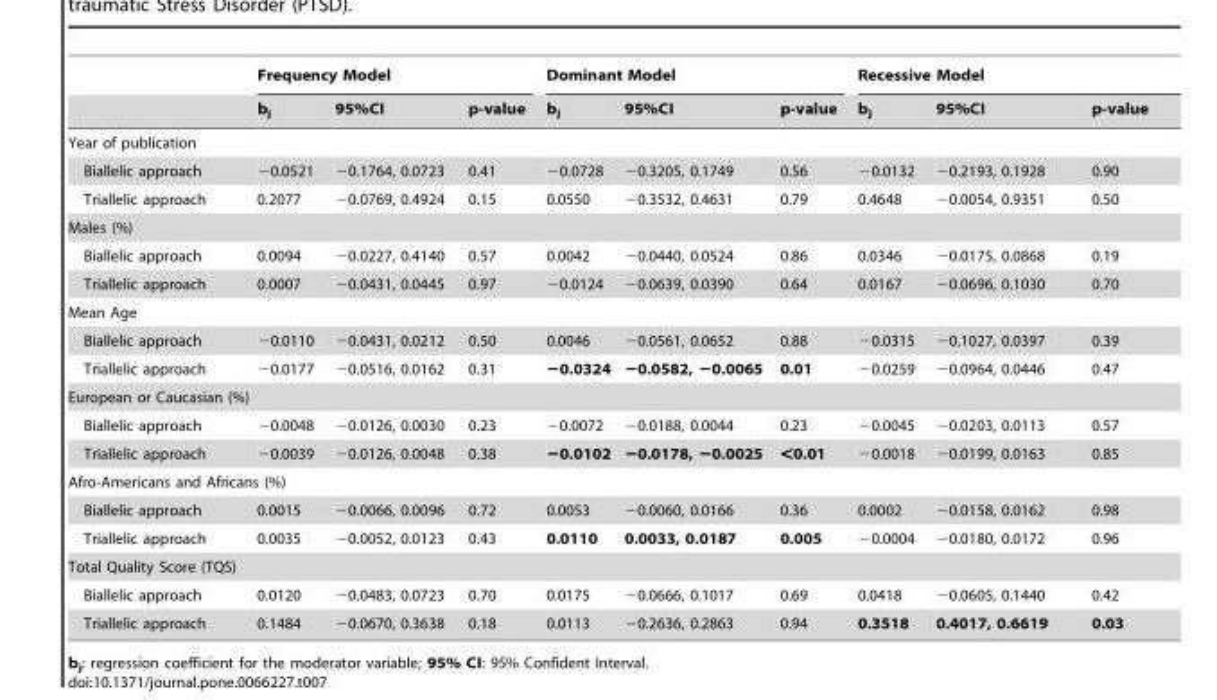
<table><thead><tr><td rowspan="2"></td><td colspan="3">Frequency Model</td><td colspan="3">Dominant Model</td><td colspan="3">Recessive Model</td></tr><tr><td>b<sub>j</sub></td><td>95%CI</td><td>p-value</td><td>b<sub>j</sub></td><td>95%CI</td><td>p-value</td><td>b<sub>j</sub></td><td>95%CI</td><td>p-value</td></tr></thead><tbody><tr><td colspan="10">Year of publication</td></tr><tr><td>Biallelic approach</td><td>−0.0521</td><td>−0.1764, 0.0723</td><td>0.41</td><td>−0.0728</td><td>−0.3205, 0.1749</td><td>0.56</td><td>−0.0132</td><td>−0.2193, 0.1928</td><td>0.90</td></tr><tr><td>Triallelic approach</td><td>0.2077</td><td>−0.0769, 0.4924</td><td>0.15</td><td>0.0550</td><td>−0.3532, 0.4631</td><td>0.79</td><td>0.4648</td><td>−0.0054, 0.9351</td><td>0.50</td></tr><tr><td colspan="10">Males (%)</td></tr><tr><td>Biallelic approach</td><td>0.0094</td><td>−0.0227, 0.4140</td><td>0.57</td><td>0.0042</td><td>−0.0440, 0.0524</td><td>0.86</td><td>0.0346</td><td>−0.0175, 0.0868</td><td>0.19</td></tr><tr><td>Triallelic approach</td><td>0.0007</td><td>−0.0431, 0.0445</td><td>0.97</td><td>−0.0124</td><td>−0.0639, 0.0390</td><td>0.64</td><td>0.0167</td><td>−0.0696, 0.1030</td><td>0.70</td></tr><tr><td colspan="10">Mean Age</td></tr><tr><td>Biallelic approach</td><td>−0.0110</td><td>−0.0431, 0.0212</td><td>0.50</td><td>0.0046</td><td>−0.0561, 0.0652</td><td>0.88</td><td>−0.0315</td><td>−0.1027, 0.0397</td><td>0.39</td></tr><tr><td>Triallelic approach</td><td>−0.0177</td><td>−0.0516, 0.0162</td><td>0.31</td><td>−0.0324</td><td>−0.0582, −0.0065</td><td>0.01</td><td>−0.0259</td><td>−0.0964, 0.0446</td><td>0.47</td></tr><tr><td colspan="10">European or Caucasian (%)</td></tr><tr><td>Biallelic approach</td><td>−0.0048</td><td>−0.0126, 0.0030</td><td>0.23</td><td>−0.0072</td><td>−0.0188, 0.0044</td><td>0.23</td><td>−0.0045</td><td>−0.0203, 0.0113</td><td>0.57</td></tr><tr><td>Triallelic approach</td><td>−0.0039</td><td>−0.0126, 0.0048</td><td>0.38</td><td>−0.0102</td><td>−0.0178, −0.0025</td><td>&lt;0.01</td><td>−0.0018</td><td>−0.0199, 0.0163</td><td>0.85</td></tr><tr><td colspan="10">Afro-Americans and Africans (%)</td></tr><tr><td>Biallelic approach</td><td>0.0015</td><td>−0.0066, 0.0096</td><td>0.72</td><td>0.0053</td><td>−0.0060, 0.0166</td><td>0.36</td><td>0.0002</td><td>−0.0158, 0.0162</td><td>0.98</td></tr><tr><td>Triallelic approach</td><td>0.0035</td><td>−0.0052, 0.0123</td><td>0.43</td><td>0.0110</td><td>0.0033, 0.0187</td><td>0.005</td><td>−0.0004</td><td>−0.0180, 0.0172</td><td>0.96</td></tr><tr><td colspan="10">Total Quality Score (TQS)</td></tr><tr><td>Biallelic approach</td><td>0.0120</td><td>−0.0483, 0.0723</td><td>0.70</td><td>0.0175</td><td>−0.0666, 0.1017</td><td>0.69</td><td>0.0418</td><td>−0.0605, 0.1440</td><td>0.42</td></tr><tr><td>Triallelic approach</td><td>0.1484</td><td>−0.0670, 0.3638</td><td>0.18</td><td>0.0113</td><td>−0.2636, 0.2863</td><td>0.94</td><td>0.3518</td><td>0.4017, 0.6619</td><td>0.03</td></tr></tbody></table>